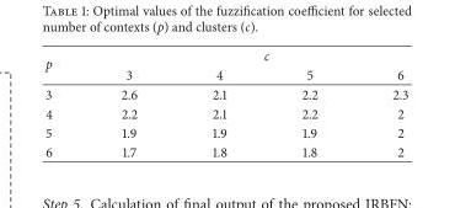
<table><thead><tr><td rowspan="2">p</td><td colspan="4">c</td></tr><tr><td>3</td><td>4</td><td>5</td><td>6</td></tr></thead><tbody><tr><td>3</td><td>2.6</td><td>2.1</td><td>2.2</td><td>2.3</td></tr><tr><td>4</td><td>2.2</td><td>2.1</td><td>2.2</td><td>2</td></tr><tr><td>5</td><td>1.9</td><td>1.9</td><td>1.9</td><td>2</td></tr><tr><td>6</td><td>1.7</td><td>1.8</td><td>1.8</td><td>2</td></tr></tbody></table>